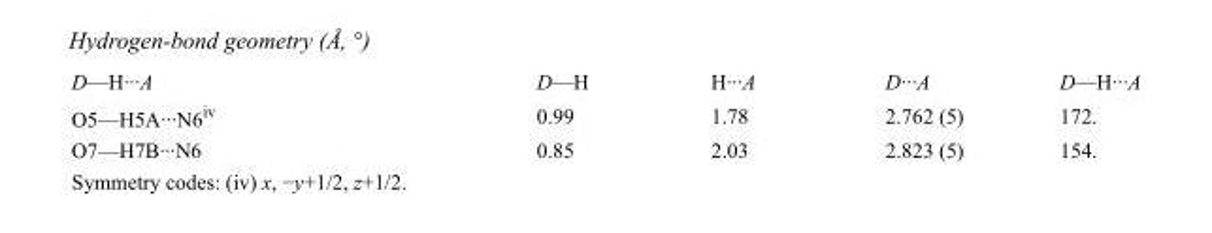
<table><tbody><tr><td>D—H···A</td><td>D—H</td><td>H···A</td><td>D···A</td><td>D—H···A</td></tr><tr><td>O5—H5A···N6<sup>iv</sup></td><td>0.99</td><td>1.78</td><td>2.762 (5)</td><td>172.</td></tr><tr><td>O7—H7B···N6</td><td>0.85</td><td>2.03</td><td>2.823 (5)</td><td>154.</td></tr></tbody></table>